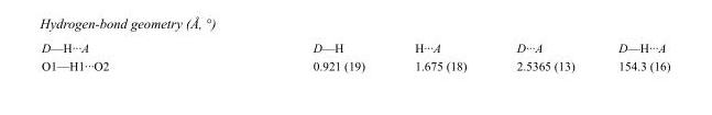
<table><tbody><tr><td>D—H···A</td><td>D—H</td><td>H···A</td><td>D···A</td><td>D—H···A</td></tr><tr><td>O1—H1···O2</td><td>0.921 (19)</td><td>1.675 (18)</td><td>2.5365 (13)</td><td>154.3 (16)</td></tr></tbody></table>